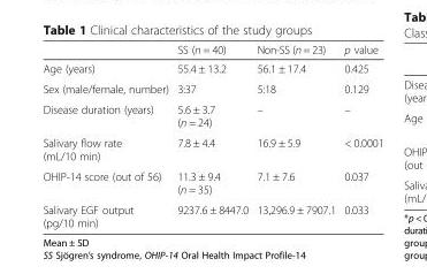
<table><thead><tr><td></td><td>SS (n = 40)</td><td>Non-SS (n = 23)</td><td>p value</td></tr></thead><tbody><tr><td>Age (years)</td><td>55.4 ± 13.2</td><td>56.1 ± 17.4</td><td>0.425</td></tr><tr><td>Sex (male/female, number)</td><td>3:37</td><td>5:18</td><td>0.129</td></tr><tr><td>Disease duration (years)</td><td>5.6 ± 3.7 (n = 24)</td><td>–</td><td>–</td></tr><tr><td>Salivary flow rate (mL/10 min)</td><td>7.8 ± 4.4</td><td>16.9 ± 5.9</td><td>&lt; 0.0001</td></tr><tr><td>OHIP-14 score (out of 56)</td><td>11.3 ± 9.4 (n = 35)</td><td>7.1 ± 7.6</td><td>0.037</td></tr><tr><td>Salivary EGF output (pg/10 min)</td><td>9237.6 ± 8447.0</td><td>13,296.9 ± 7907.1</td><td>0.033</td></tr></tbody></table>